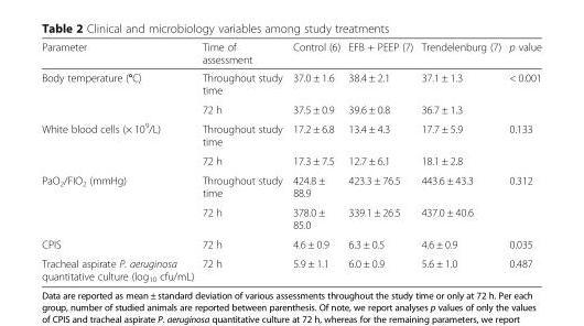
<table><thead><tr><td>Parameter</td><td>Time of assessment</td><td>Control (6)</td><td>EFB + PEEP (7)</td><td>Trendelenburg (7)</td><td>p value</td></tr></thead><tbody><tr><td rowspan="2">Body temperature (°C)</td><td>Throughout study time</td><td>37.0 ± 1.6</td><td>38.4 ± 2.1</td><td>37.1 ± 1.3</td><td rowspan="2">&lt; 0.001</td></tr><tr><td>72 h</td><td>37.5 ± 0.9</td><td>39.6 ± 0.8</td><td>36.7 ± 1.3</td></tr><tr><td rowspan="2">White blood cells (× 10<sup>9</sup>/L)</td><td>Throughout study time</td><td>17.2 ± 6.8</td><td>13.4 ± 4.3</td><td>17.7 ± 5.9</td><td rowspan="2">0.133</td></tr><tr><td>72 h</td><td>17.3 ± 7.5</td><td>12.7 ± 6.1</td><td>18.1 ± 2.8</td></tr><tr><td rowspan="2">PaO<sub>2</sub>/FIO<sub>2</sub> (mmHg)</td><td>Throughout study time</td><td>424.8 ± 88.9</td><td>423.3 ± 76.5</td><td>443.6 ± 43.3</td><td rowspan="2">0.312</td></tr><tr><td>72 h</td><td>378.0 ± 85.0</td><td>339.1 ± 26.5</td><td>437.0 ± 40.6</td></tr><tr><td>CPIS</td><td>72 h</td><td>4.6 ± 0.9</td><td>6.3 ± 0.5</td><td>4.6 ± 0.9</td><td>0.035</td></tr><tr><td>Tracheal aspirate P. aeruginosa quantitative culture (log<sub>10</sub> cfu/mL)</td><td>72 h</td><td>5.9 ± 1.1</td><td>6.0 ± 0.9</td><td>5.6 ± 1.0</td><td>0.487</td></tr></tbody></table>